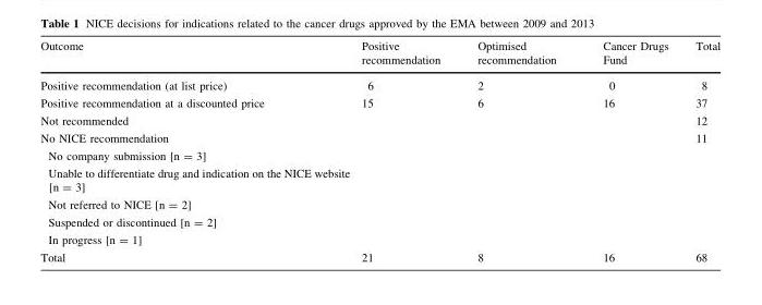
<table><thead><tr><td>Outcome</td><td>Positive recommendation</td><td>Optimised recommendation</td><td>Cancer Drugs Fund</td><td>Total</td></tr></thead><tbody><tr><td>Positive recommendation (at list price)</td><td>6</td><td>2</td><td>0</td><td>8</td></tr><tr><td>Positive recommendation at a discounted price</td><td>15</td><td>6</td><td>16</td><td>37</td></tr><tr><td>Not recommended</td><td></td><td></td><td></td><td>12</td></tr><tr><td>No NICE recommendation</td><td></td><td></td><td></td><td>11</td></tr><tr><td colspan="5">No company submission [n = 3]</td></tr><tr><td colspan="5">Unable to differentiate drug and indication on the NICE website [n = 3]</td></tr><tr><td colspan="5">Not referred to NICE [n = 2]</td></tr><tr><td colspan="5">Suspended or discontinued [n = 2]</td></tr><tr><td colspan="5">In progress [n = 1]</td></tr><tr><td>Total</td><td>21</td><td>8</td><td>16</td><td>68</td></tr></tbody></table>